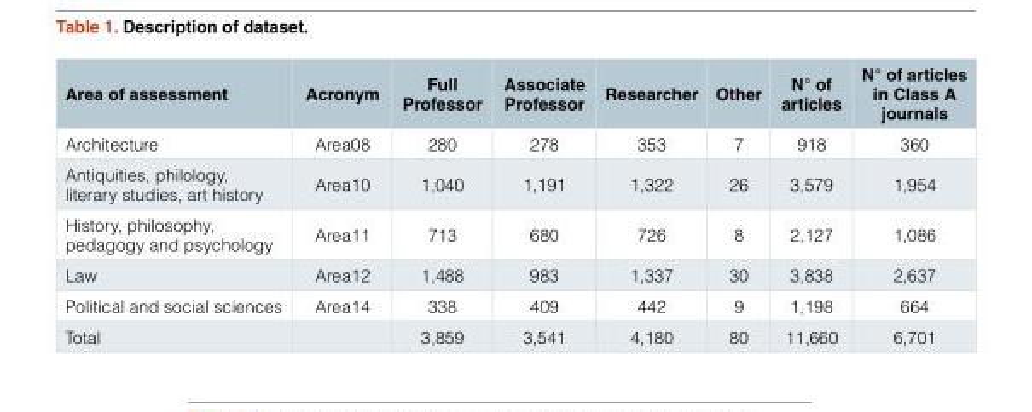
<table><thead><tr><td>Area of assessment</td><td>Acronym</td><td>Full Professor</td><td>Associate Professor</td><td>Researcher</td><td>Other</td><td>N° of articles</td><td>N° of articles in Class A journals</td></tr></thead><tbody><tr><td>Architecture</td><td>Area08</td><td>280</td><td>278</td><td>353</td><td>7</td><td>918</td><td>360</td></tr><tr><td>Antiquities, philology, literary studies, art history</td><td>Area10</td><td>1,040</td><td>1,191</td><td>1,322</td><td>26</td><td>3,579</td><td>1,954</td></tr><tr><td>History, philosophy, pedagogy and psychology</td><td>Area11</td><td>713</td><td>680</td><td>726</td><td>8</td><td>2,127</td><td>1,086</td></tr><tr><td>Law</td><td>Area12</td><td>1,488</td><td>983</td><td>1,337</td><td>30</td><td>3,838</td><td>2,637</td></tr><tr><td>Political and social sciences</td><td>Area14</td><td>338</td><td>409</td><td>442</td><td>9</td><td>1,198</td><td>664</td></tr><tr><td>Total</td><td></td><td>3,859</td><td>3,541</td><td>4,180</td><td>80</td><td>11,660</td><td>6,701</td></tr></tbody></table>